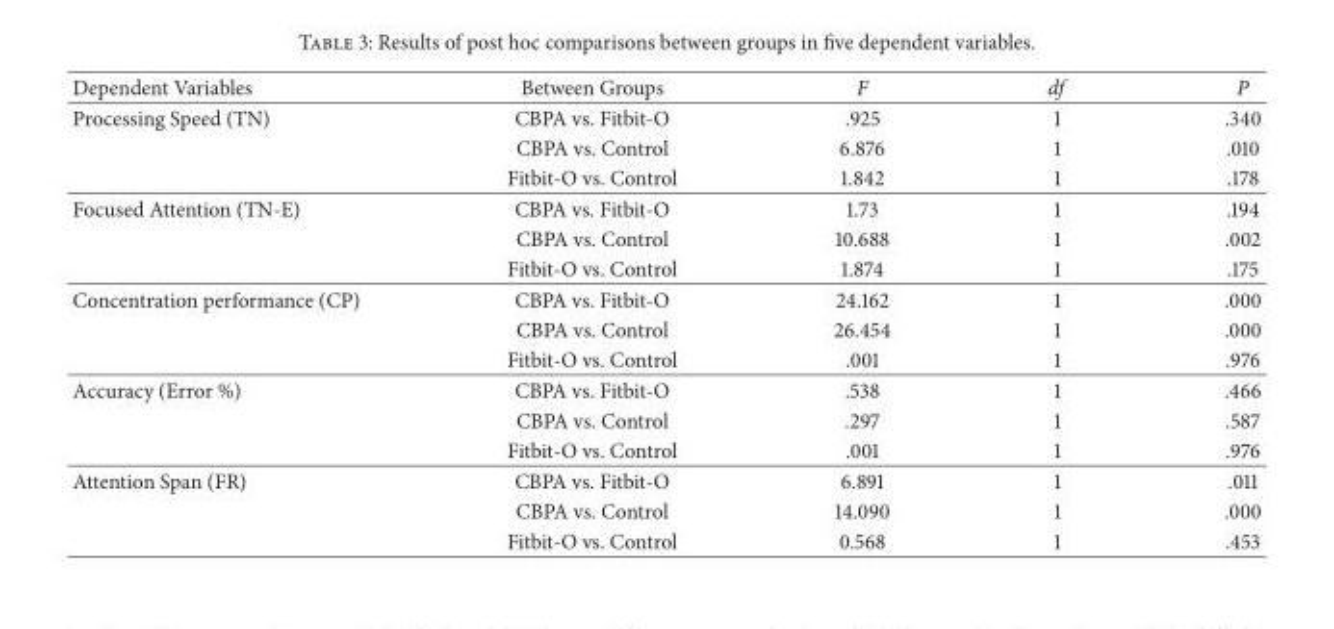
<table><thead><tr><td>Dependent Variables</td><td>Between Groups</td><td>F</td><td>df</td><td>P</td></tr></thead><tbody><tr><td rowspan="3">Processing Speed (TN)</td><td>CBPA vs. Fitbit-O</td><td>.925</td><td>1</td><td>.340</td></tr><tr><td>CBPA vs. Control</td><td>6.876</td><td>1</td><td>.010</td></tr><tr><td>Fitbit-O vs. Control</td><td>1.842</td><td>1</td><td>.178</td></tr><tr><td rowspan="3">Focused Attention (TN-E)</td><td>CBPA vs. Fitbit-O</td><td>1.73</td><td>1</td><td>.194</td></tr><tr><td>CBPA vs. Control</td><td>10.688</td><td>1</td><td>.002</td></tr><tr><td>Fitbit-O vs. Control</td><td>1.874</td><td>1</td><td>.175</td></tr><tr><td rowspan="3">Concentration performance (CP)</td><td>CBPA vs. Fitbit-O</td><td>24.162</td><td>1</td><td>.000</td></tr><tr><td>CBPA vs. Control</td><td>26.454</td><td>1</td><td>.000</td></tr><tr><td>Fitbit-O vs. Control</td><td>.001</td><td>1</td><td>.976</td></tr><tr><td rowspan="3">Accuracy (Error %)</td><td>CBPA vs. Fitbit-O</td><td>.538</td><td>1</td><td>.466</td></tr><tr><td>CBPA vs. Control</td><td>.297</td><td>1</td><td>.587</td></tr><tr><td>Fitbit-O vs. Control</td><td>.001</td><td>1</td><td>.976</td></tr><tr><td rowspan="3">Attention Span (FR)</td><td>CBPA vs. Fitbit-O</td><td>6.891</td><td>1</td><td>.011</td></tr><tr><td>CBPA vs. Control</td><td>14.090</td><td>1</td><td>.000</td></tr><tr><td>Fitbit-O vs. Control</td><td>0.568</td><td>1</td><td>.453</td></tr></tbody></table>